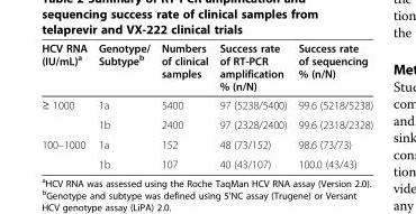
<table><thead><tr><td>HCV RNA (IU/mL)<sup>a</sup></td><td>Genotype/ Subtype<sup>b</sup></td><td>Numbers of clinical samples</td><td>Success rate of RT-PCR amplification % (n/N)</td><td>Success rate of sequencing % (n/N)</td></tr></thead><tbody><tr><td rowspan="2">≥ 1000</td><td>1a</td><td>5400</td><td>97 (5238/5400)</td><td>99.6 (5218/5238)</td></tr><tr><td>1b</td><td>2400</td><td>97 (2328/2400)</td><td>99.6 (2318/2328)</td></tr><tr><td rowspan="2">100–1000</td><td>1a</td><td>152</td><td>48 (73/152)</td><td>98.6 (73/73)</td></tr><tr><td>1b</td><td>107</td><td>40 (43/107)</td><td>100.0 (43/43)</td></tr></tbody></table>